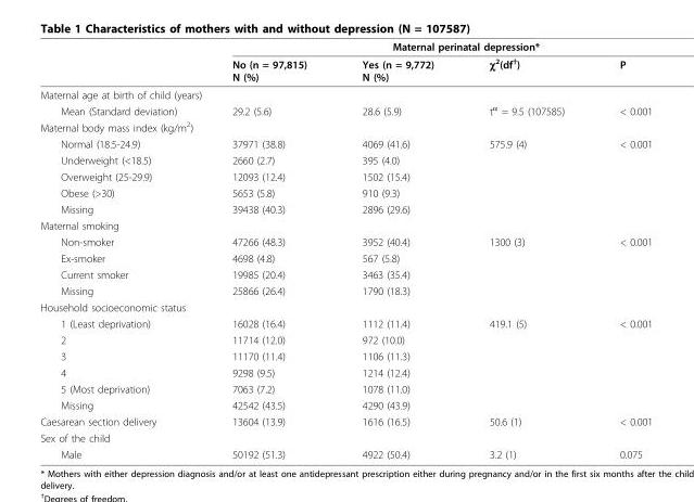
<table><thead><tr><td rowspan="2"></td><td colspan="4">Maternal perinatal depression*</td></tr><tr><td>No (n = 97,815) N (%)</td><td>Yes (n = 9,772) N (%)</td><td>χ<sup>2</sup>(df<sup>†</sup>)</td><td>P</td></tr></thead><tbody><tr><td colspan="5">Maternal age at birth of child (years)</td></tr><tr><td>Mean (Standard deviation)</td><td>29.2 (5.6)</td><td>28.6 (5.9)</td><td>t<sup>α</sup> = 9.5 (107585)</td><td>&lt; 0.001</td></tr><tr><td colspan="5">Maternal body mass index (kg/m<sup>2</sup>)</td></tr><tr><td>Normal (18.5-24.9)</td><td>37971 (38.8)</td><td>4069 (41.6)</td><td>575.9 (4)</td><td>&lt; 0.001</td></tr><tr><td>Underweight (&lt;18.5)</td><td>2660 (2.7)</td><td>395 (4.0)</td><td></td><td></td></tr><tr><td>Overweight (25-29.9)</td><td>12093 (12.4)</td><td>1502 (15.4)</td><td></td><td></td></tr><tr><td>Obese (&gt;30)</td><td>5653 (5.8)</td><td>910 (9.3)</td><td></td><td></td></tr><tr><td>Missing</td><td>39438 (40.3)</td><td>2896 (29.6)</td><td></td><td></td></tr><tr><td colspan="5">Maternal smoking</td></tr><tr><td>Non-smoker</td><td>47266 (48.3)</td><td>3952 (40.4)</td><td>1300 (3)</td><td>&lt; 0.001</td></tr><tr><td>Ex-smoker</td><td>4698 (4.8)</td><td>567 (5.8)</td><td></td><td></td></tr><tr><td>Current smoker</td><td>19985 (20.4)</td><td>3463 (35.4)</td><td></td><td></td></tr><tr><td>Missing</td><td>25866 (26.4)</td><td>1790 (18.3)</td><td></td><td></td></tr><tr><td colspan="5">Household socioeconomic status</td></tr><tr><td>1 (Least deprivation)</td><td>16028 (16.4)</td><td>1112 (11.4)</td><td>419.1 (5)</td><td>&lt; 0.001</td></tr><tr><td>2</td><td>11714 (12.0)</td><td>972 (10.0)</td><td></td><td></td></tr><tr><td>3</td><td>11170 (11.4)</td><td>1106 (11.3)</td><td></td><td></td></tr><tr><td>4</td><td>9298 (9.5)</td><td>1214 (12.4)</td><td></td><td></td></tr><tr><td>5 (Most deprivation)</td><td>7063 (7.2)</td><td>1078 (11.0)</td><td></td><td></td></tr><tr><td>Missing</td><td>42542 (43.5)</td><td>4290 (43.9)</td><td></td><td></td></tr><tr><td>Caesarean section delivery</td><td>13604 (13.9)</td><td>1616 (16.5)</td><td>50.6 (1)</td><td>&lt; 0.001</td></tr><tr><td colspan="5">Sex of the child</td></tr><tr><td>Male</td><td>50192 (51.3)</td><td>4922 (50.4)</td><td>3.2 (1)</td><td>0.075</td></tr></tbody></table>